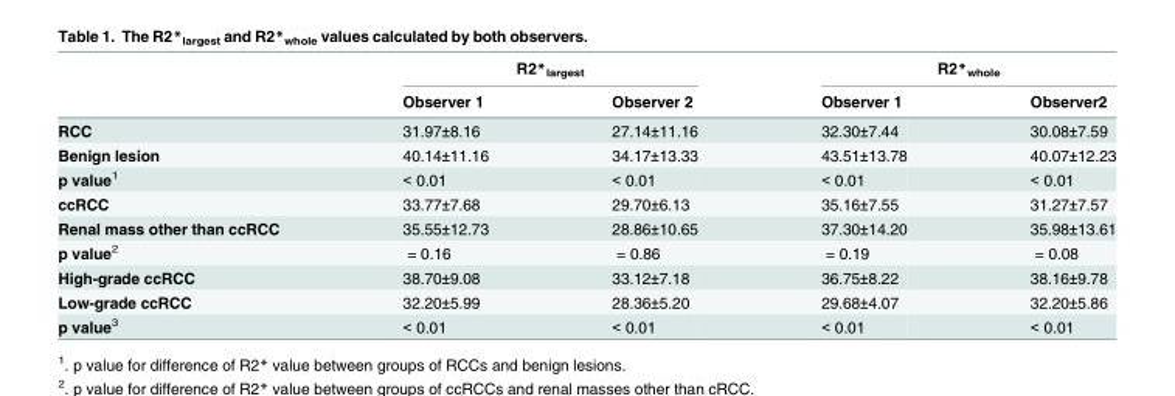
<table><thead><tr><td rowspan="2"></td><td colspan="2">R2*<sub>largest</sub></td><td colspan="2">R2*<sub>whole</sub></td></tr><tr><td>Observer 1</td><td>Observer 2</td><td>Observer 1</td><td>Observer2</td></tr></thead><tbody><tr><td>RCC</td><td>31.97±8.16</td><td>27.14±11.16</td><td>32.30±7.44</td><td>30.08±7.59</td></tr><tr><td>Benign lesion</td><td>40.14±11.16</td><td>34.17±13.33</td><td>43.51±13.78</td><td>40.07±12.23</td></tr><tr><td>p value<sup>1</sup></td><td>&lt; 0.01</td><td>&lt; 0.01</td><td>&lt; 0.01</td><td>&lt; 0.01</td></tr><tr><td>ccRCC</td><td>33.77±7.68</td><td>29.70±6.13</td><td>35.16±7.55</td><td>31.27±7.57</td></tr><tr><td>Renal mass other than ccRCC</td><td>35.55±12.73</td><td>28.86±10.65</td><td>37.30±14.20</td><td>35.98±13.61</td></tr><tr><td>p value<sup>2</sup></td><td>= 0.16</td><td>= 0.86</td><td>= 0.19</td><td>= 0.08</td></tr><tr><td>High-grade ccRCC</td><td>38.70±9.08</td><td>33.12±7.18</td><td>36.75±8.22</td><td>38.16±9.78</td></tr><tr><td>Low-grade ccRCC</td><td>32.20±5.99</td><td>28.36±5.20</td><td>29.68±4.07</td><td>32.20±5.86</td></tr><tr><td>p value<sup>3</sup></td><td>&lt; 0.01</td><td>&lt; 0.01</td><td>&lt; 0.01</td><td>&lt; 0.01</td></tr></tbody></table>